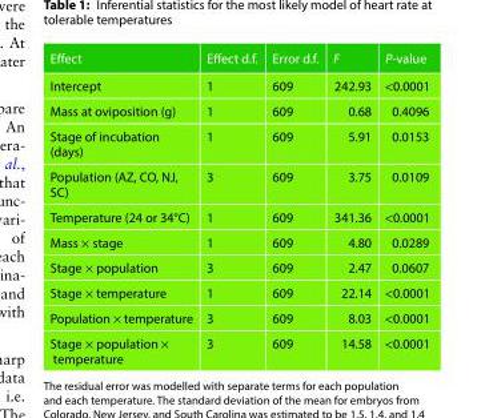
<table><thead><tr><td>Effect</td><td>Effect d.f.</td><td>Error d.f.</td><td>F</td><td>P-value</td></tr></thead><tbody><tr><td>Intercept</td><td>1</td><td>609</td><td>242.93</td><td>&lt;0.0001</td></tr><tr><td>Mass at oviposition (g)</td><td>1</td><td>609</td><td>0.68</td><td>0.4096</td></tr><tr><td>Stage of incubation (days)</td><td>1</td><td>609</td><td>5.91</td><td>0.0153</td></tr><tr><td>Population (AZ, CO, NJ, SC)</td><td>3</td><td>609</td><td>3.75</td><td>0.0109</td></tr><tr><td>Temperature (24 or 34°C)</td><td>1</td><td>609</td><td>341.36</td><td>&lt;0.0001</td></tr><tr><td>Mass × stage</td><td>1</td><td>609</td><td>4.80</td><td>0.0289</td></tr><tr><td>Stage × population</td><td>3</td><td>609</td><td>2.47</td><td>0.0607</td></tr><tr><td>Stage × temperature</td><td>1</td><td>609</td><td>22.14</td><td>&lt;0.0001</td></tr><tr><td>Population × temperature</td><td>3</td><td>609</td><td>8.03</td><td>&lt;0.0001</td></tr><tr><td>Stage × population × temperature</td><td>3</td><td>609</td><td>14.58</td><td>&lt;0.0001</td></tr></tbody></table>